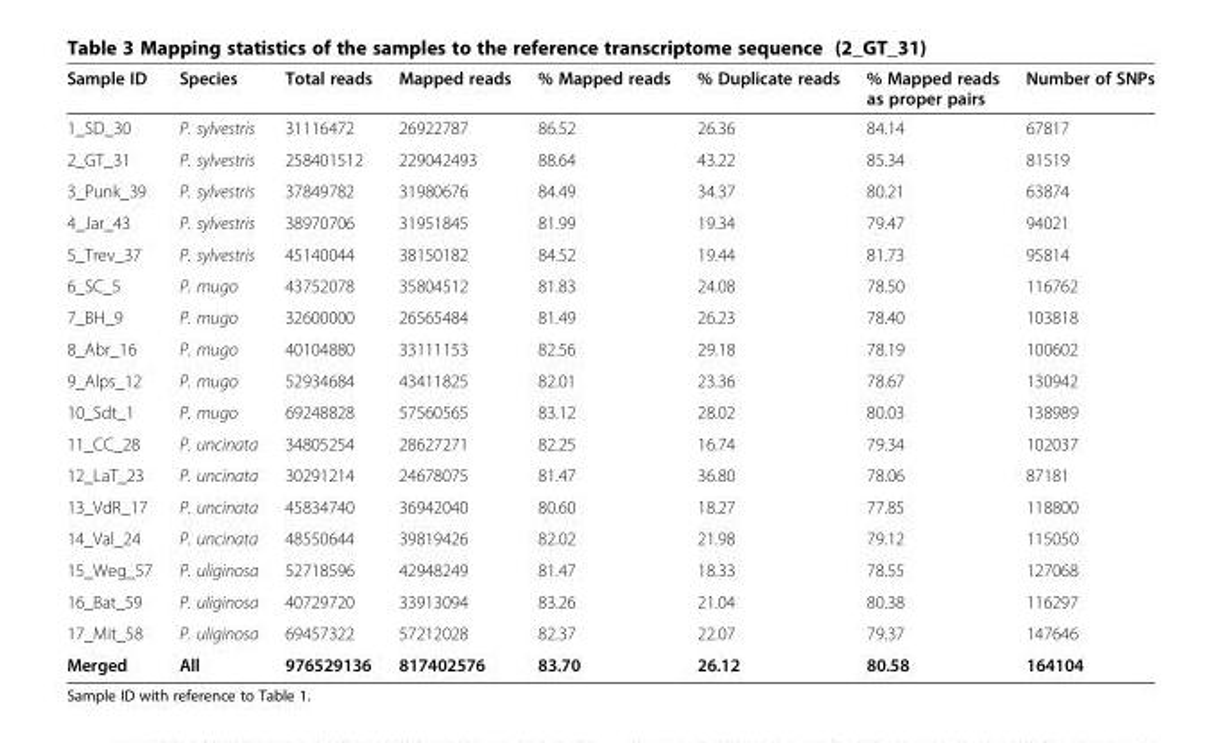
<table><thead><tr><td>Sample ID</td><td>Species</td><td>Total reads</td><td>Mapped reads</td><td>% Mapped reads</td><td>% Duplicate reads</td><td>% Mapped reads as proper pairs</td><td>Number of SNPs</td></tr></thead><tbody><tr><td>1_SD_30</td><td>P. sylvestris</td><td>31116472</td><td>26922787</td><td>86.52</td><td>26.36</td><td>84.14</td><td>67817</td></tr><tr><td>2_GT_31</td><td>P. sylvestris</td><td>258401512</td><td>229042493</td><td>88.64</td><td>43.22</td><td>85.34</td><td>81519</td></tr><tr><td>3_Punk_39</td><td>P. sylvestris</td><td>37849782</td><td>31980676</td><td>84.49</td><td>34.37</td><td>80.21</td><td>63874</td></tr><tr><td>4_Jar_43</td><td>P. sylvestris</td><td>38970706</td><td>31951845</td><td>81.99</td><td>19.34</td><td>79.47</td><td>94021</td></tr><tr><td>5_Trev_37</td><td>P. sylvestris</td><td>45140044</td><td>38150182</td><td>84.52</td><td>19.44</td><td>81.73</td><td>95814</td></tr><tr><td>6_SC_5</td><td>P. mugo</td><td>43752078</td><td>35804512</td><td>81.83</td><td>24.08</td><td>78.50</td><td>116762</td></tr><tr><td>7_BH_9</td><td>P. mugo</td><td>32600000</td><td>26565484</td><td>81.49</td><td>26.23</td><td>78.40</td><td>103818</td></tr><tr><td>8_Abr_16</td><td>P. mugo</td><td>40104880</td><td>33111153</td><td>82.56</td><td>29.18</td><td>78.19</td><td>100602</td></tr><tr><td>9_Alps_12</td><td>P. mugo</td><td>52934684</td><td>43411825</td><td>82.01</td><td>23.36</td><td>78.67</td><td>130942</td></tr><tr><td>10_Sdt_1</td><td>P. mugo</td><td>69248828</td><td>57560565</td><td>83.12</td><td>28.02</td><td>80.03</td><td>138989</td></tr><tr><td>11_CC_28</td><td>P. uncinata</td><td>34805254</td><td>28627271</td><td>82.25</td><td>16.74</td><td>79.34</td><td>102037</td></tr><tr><td>12_LaT_23</td><td>P. uncinata</td><td>30291214</td><td>24678075</td><td>81.47</td><td>36.80</td><td>78.06</td><td>87181</td></tr><tr><td>13_VdR_17</td><td>P. uncinata</td><td>45834740</td><td>36942040</td><td>80.60</td><td>18.27</td><td>77.85</td><td>118800</td></tr><tr><td>14_Val_24</td><td>P. uncinata</td><td>48550644</td><td>39819426</td><td>82.02</td><td>21.98</td><td>79.12</td><td>115050</td></tr><tr><td>15_Weg_57</td><td>P. uliginosa</td><td>52718596</td><td>42948249</td><td>81.47</td><td>18.33</td><td>78.55</td><td>127068</td></tr><tr><td>16_Bat_59</td><td>P. uliginosa</td><td>40729720</td><td>33913094</td><td>83.26</td><td>21.04</td><td>80.38</td><td>116297</td></tr><tr><td>17_Mit_58</td><td>P. uliginosa</td><td>69457322</td><td>57212028</td><td>82.37</td><td>22.07</td><td>79.37</td><td>147646</td></tr><tr><td>Merged</td><td>All</td><td>976529136</td><td>817402576</td><td>83.70</td><td>26.12</td><td>80.58</td><td>164104</td></tr></tbody></table>